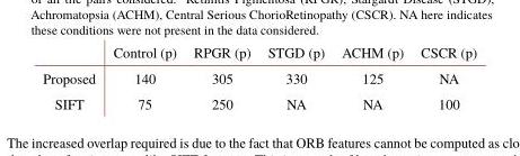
<table><thead><tr><td></td><td>Control (p)</td><td>RPGR (p)</td><td>STGD (p)</td><td>ACHM (p)</td><td>CSCR (p)</td></tr></thead><tbody><tr><td>Proposed</td><td>140</td><td>305</td><td>330</td><td>125</td><td>NA</td></tr><tr><td>SIFT</td><td>75</td><td>250</td><td>NA</td><td>NA</td><td>100</td></tr></tbody></table>